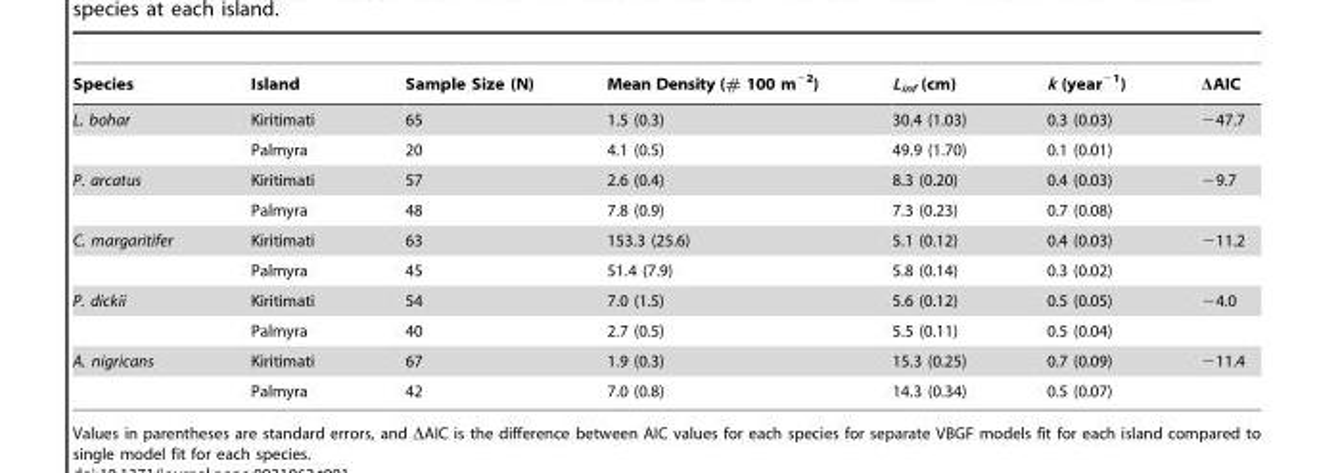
<table><thead><tr><td>Species</td><td>Island</td><td>Sample Size (N)</td><td>Mean Density (# 100 m<sup>−2</sup>)</td><td>L<sub>inf</sub> (cm)</td><td>k (year<sup>−1</sup>)</td><td>ΔAIC</td></tr></thead><tbody><tr><td rowspan="2">L. bohar</td><td>Kiritimati</td><td>65</td><td>1.5 (0.3)</td><td>30.4 (1.03)</td><td>0.3 (0.03)</td><td>−47.7</td></tr><tr><td>Palmyra</td><td>20</td><td>4.1 (0.5)</td><td>49.9 (1.70)</td><td>0.1 (0.01)</td><td></td></tr><tr><td rowspan="2">P. arcatus</td><td>Kiritimati</td><td>57</td><td>2.6 (0.4)</td><td>8.3 (0.20)</td><td>0.4 (0.03)</td><td>−9.7</td></tr><tr><td>Palmyra</td><td>48</td><td>7.8 (0.9)</td><td>7.3 (0.23)</td><td>0.7 (0.08)</td><td></td></tr><tr><td rowspan="2">C. margaritifer</td><td>Kiritimati</td><td>63</td><td>153.3 (25.6)</td><td>5.1 (0.12)</td><td>0.4 (0.03)</td><td>−11.2</td></tr><tr><td>Palmyra</td><td>45</td><td>51.4 (7.9)</td><td>5.8 (0.14)</td><td>0.3 (0.02)</td><td></td></tr><tr><td rowspan="2">P. dickii</td><td>Kiritimati</td><td>54</td><td>7.0 (1.5)</td><td>5.6 (0.12)</td><td>0.5 (0.05)</td><td>−4.0</td></tr><tr><td>Palmyra</td><td>40</td><td>2.7 (0.5)</td><td>5.5 (0.11)</td><td>0.5 (0.04)</td><td></td></tr><tr><td rowspan="2">A. nigricans</td><td>Kiritimati</td><td>67</td><td>1.9 (0.3)</td><td>15.3 (0.25)</td><td>0.7 (0.09)</td><td>−11.4</td></tr><tr><td>Palmyra</td><td>42</td><td>7.0 (0.8)</td><td>14.3 (0.34)</td><td>0.5 (0.07)</td><td></td></tr></tbody></table>